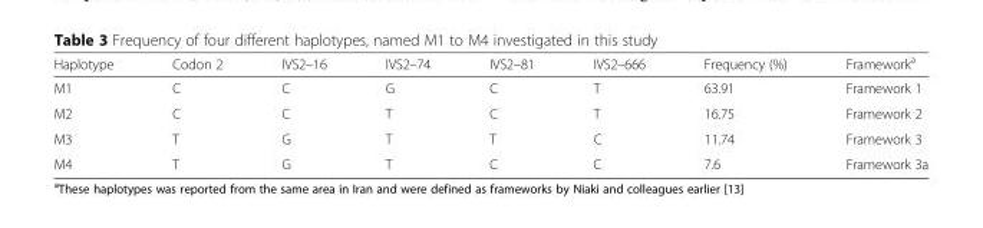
<table><thead><tr><td>Haplotype</td><td>Codon 2</td><td>IVS2–16</td><td>IVS2–74</td><td>IVS2–81</td><td>IVS2–666</td><td>Frequency (%)</td><td>Framework<sup>a</sup></td></tr></thead><tbody><tr><td>M1</td><td>C</td><td>C</td><td>G</td><td>C</td><td>T</td><td>63.91</td><td>Framework 1</td></tr><tr><td>M2</td><td>C</td><td>C</td><td>T</td><td>C</td><td>T</td><td>16.75</td><td>Framework 2</td></tr><tr><td>M3</td><td>T</td><td>G</td><td>T</td><td>T</td><td>C</td><td>11.74</td><td>Framework 3</td></tr><tr><td>M4</td><td>T</td><td>G</td><td>T</td><td>C</td><td>C</td><td>7.6</td><td>Framework 3a</td></tr></tbody></table>